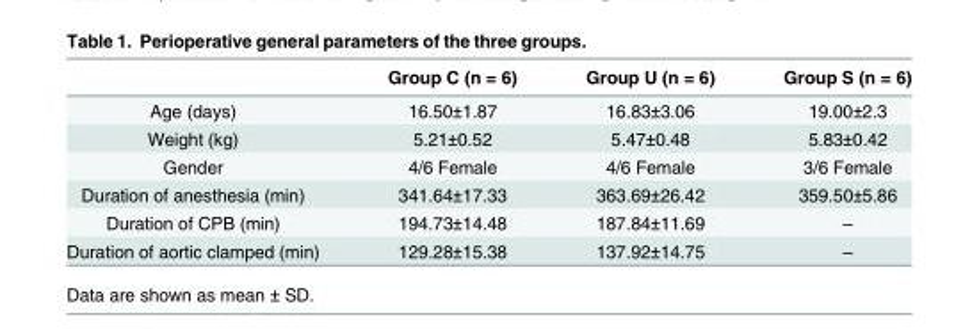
<table><thead><tr><td></td><td>Group C (n = 6)</td><td>Group U (n = 6)</td><td>Group S (n = 6)</td></tr></thead><tbody><tr><td>Age (days)</td><td>16.50±1.87</td><td>16.83±3.06</td><td>19.00±2.3</td></tr><tr><td>Weight (kg)</td><td>5.21±0.52</td><td>5.47±0.48</td><td>5.83±0.42</td></tr><tr><td>Gender</td><td>4/6 Female</td><td>4/6 Female</td><td>3/6 Female</td></tr><tr><td>Duration of anesthesia (min)</td><td>341.64±17.33</td><td>363.69±26.42</td><td>359.50±5.86</td></tr><tr><td>Duration of CPB (min)</td><td>194.73±14.48</td><td>187.84±11.69</td><td>–</td></tr><tr><td>Duration of aortic clamped (min)</td><td>129.28±15.38</td><td>137.92±14.75</td><td>–</td></tr></tbody></table>